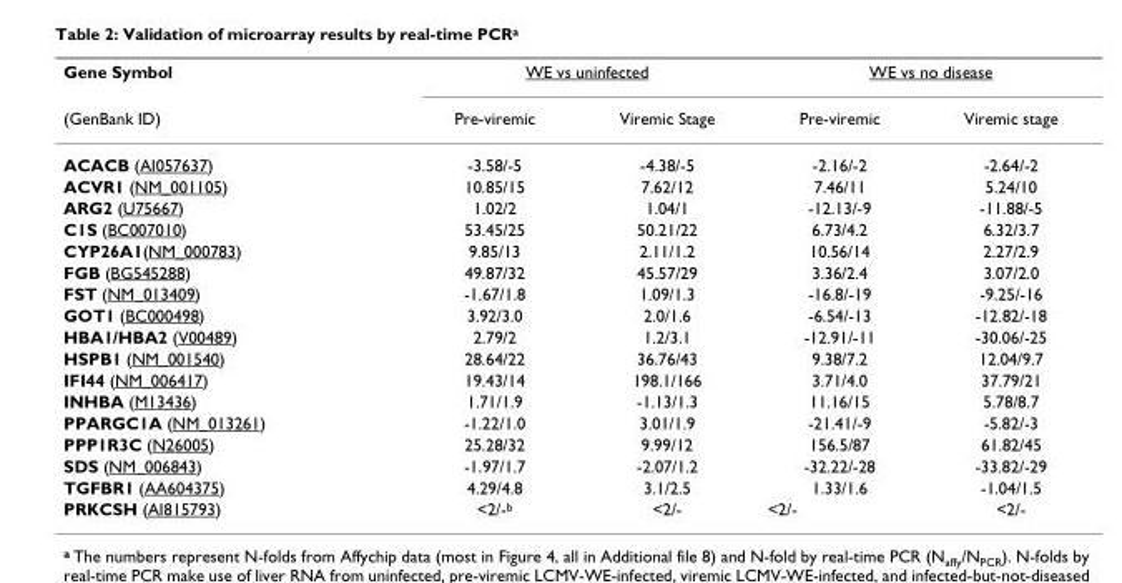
<table><thead><tr><td rowspan="2">Gene Symbol (GenBank ID)</td><td colspan="2">WE vs uninfected</td><td colspan="2">WE vs no disease</td></tr><tr><td>Pre-viremic</td><td>Viremic Stage</td><td>Pre-viremic</td><td>Viremic stage</td></tr></thead><tbody><tr><td>ACACB (AI057637)</td><td>-3.58/-5</td><td>-4.38/-5</td><td>-2.16/-2</td><td>-2.64/-2</td></tr><tr><td>ACVR1 (NM_001105)</td><td>10.85/15</td><td>7.62/12</td><td>7.46/11</td><td>5.24/10</td></tr><tr><td>ARG2 (U75667)</td><td>1.02/2</td><td>1.04/1</td><td>-12.13/-9</td><td>-11.88/-5</td></tr><tr><td>C1S (BC007010)</td><td>53.45/25</td><td>50.21/22</td><td>6.73/4.2</td><td>6.32/3.7</td></tr><tr><td>CYP26A1(NM_000783)</td><td>9.85/13</td><td>2.11/1.2</td><td>10.56/14</td><td>2.27/2.9</td></tr><tr><td>FGB (BG545288)</td><td>49.87/32</td><td>45.57/29</td><td>3.36/2.4</td><td>3.07/2.0</td></tr><tr><td>FST (NM_013409)</td><td>-1.67/1.8</td><td>1.09/1.3</td><td>-16.8/-19</td><td>-9.25/-16</td></tr><tr><td>GOT1 (BC000498)</td><td>3.92/3.0</td><td>2.0/1.6</td><td>-6.54/-13</td><td>-12.82/-18</td></tr><tr><td>HBA1/HBA2 (V00489)</td><td>2.79/2</td><td>1.2/3.1</td><td>-12.91/-11</td><td>-30.06/-25</td></tr><tr><td>HSPB1 (NM_001540)</td><td>28.64/22</td><td>36.76/43</td><td>9.38/7.2</td><td>12.04/9.7</td></tr><tr><td>IFI44 (NM_006417)</td><td>19.43/14</td><td>198.1/166</td><td>3.71/4.0</td><td>37.79/21</td></tr><tr><td>INHBA (M13436)</td><td>1.71/1.9</td><td>-1.13/1.3</td><td>11.16/15</td><td>5.78/8.7</td></tr><tr><td>PPARGC1A (NM_013261)</td><td>-1.22/1.0</td><td>3.01/1.9</td><td>-21.41/-9</td><td>-5.82/-3</td></tr><tr><td>PPP1R3C (N26005)</td><td>25.28/32</td><td>9.99/12</td><td>156.5/87</td><td>61.82/45</td></tr><tr><td>SDS (NM_006843)</td><td>-1.97/1.7</td><td>-2.07/1.2</td><td>-32.22/-28</td><td>-33.82/-29</td></tr><tr><td>TGFBR1 (AA604375)</td><td>4.29/4.8</td><td>3.1/2.5</td><td>1.33/1.6</td><td>-1.04/1.5</td></tr><tr><td>PRKCSH (AI815793)</td><td>&lt;2/-<sup>b</sup></td><td>&lt;2/-</td><td>&lt;2/-</td><td>&lt;2/-</td></tr></tbody></table>